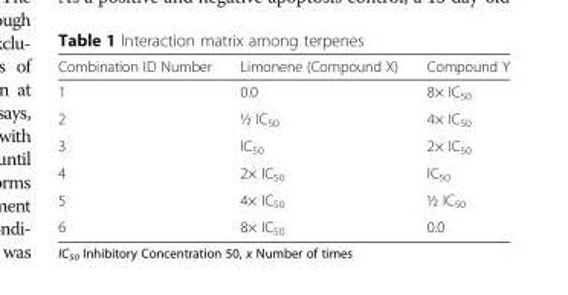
<table><thead><tr><td>Combination ID Number</td><td>Limonene (Compound X)</td><td>Compound Y</td></tr></thead><tbody><tr><td>1</td><td>0.0</td><td>8× IC<sub>50</sub></td></tr><tr><td>2</td><td>½ IC<sub>50</sub></td><td>4× IC<sub>50</sub></td></tr><tr><td>3</td><td>IC<sub>50</sub></td><td>2× IC<sub>50</sub></td></tr><tr><td>4</td><td>2× IC<sub>50</sub></td><td>IC<sub>50</sub></td></tr><tr><td>5</td><td>4× IC<sub>50</sub></td><td>½ IC<sub>50</sub></td></tr><tr><td>6</td><td>8× IC<sub>50</sub></td><td>0.0</td></tr></tbody></table>